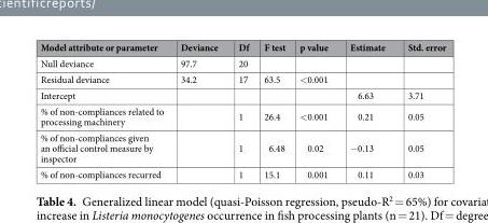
<table><thead><tr><td>Model attribute or parameter</td><td>Deviance</td><td>Df</td><td>F test</td><td>p value</td><td>Estimate</td><td>Std. error</td></tr></thead><tbody><tr><td>Null deviance</td><td>97.7</td><td>20</td><td></td><td></td><td></td><td></td></tr><tr><td>Residual deviance</td><td>34.2</td><td>17</td><td>63.5</td><td>&lt;0.001</td><td></td><td></td></tr><tr><td>Intercept</td><td></td><td></td><td></td><td></td><td>6.63</td><td>3.71</td></tr><tr><td>% of non-compliances related to processing machinery</td><td></td><td>1</td><td>26.4</td><td>&lt;0.001</td><td>0.21</td><td>0.05</td></tr><tr><td>% of non-compliances given an official control measure by inspector</td><td></td><td>1</td><td>6.48</td><td>0.02</td><td>−0.13</td><td>0.05</td></tr><tr><td>% of non-compliances recurred</td><td></td><td>1</td><td>15.1</td><td>0.001</td><td>0.11</td><td>0.03</td></tr></tbody></table>